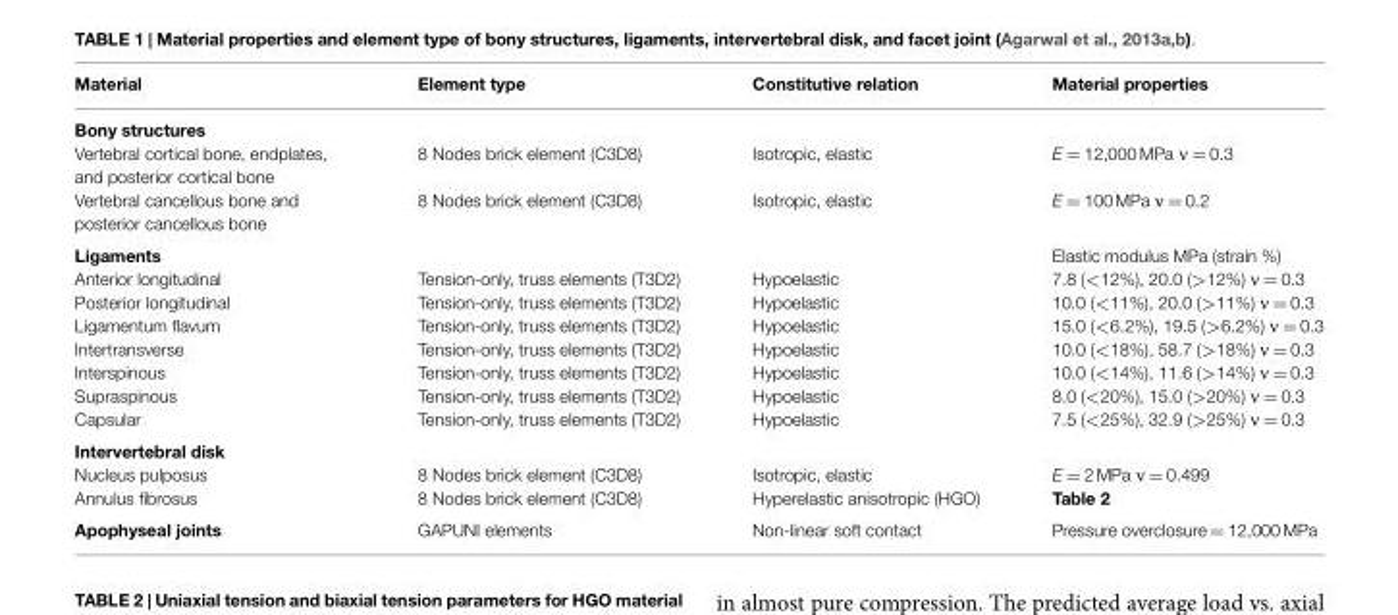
<table><thead><tr><td>Material</td><td>Element type</td><td>Constitutive relation</td><td>Material properties</td></tr></thead><tbody><tr><td colspan="4">Bony structures</td></tr><tr><td>Vertebral cortical bone, endplates, and posterior cortical bone</td><td>8 Nodes brick element (C3D8)</td><td>Isotropic, elastic</td><td>E = 12,000 MPa ν = 0.3</td></tr><tr><td>Vertebral cancellous bone and posterior cancellous bone</td><td>8 Nodes brick element (C3D8)</td><td>Isotropic, elastic</td><td>E = 100 MPa ν = 0.2</td></tr><tr><td>Ligaments</td><td></td><td></td><td>Elastic modulus MPa (strain %)</td></tr><tr><td>Anterior longitudinal</td><td>Tension-only, truss elements (T3D2)</td><td>Hypoelastic</td><td>7.8 (&lt;12%), 20.0 (&gt;12%) ν = 0.3</td></tr><tr><td>Posterior longitudinal</td><td>Tension-only, truss elements (T3D2)</td><td>Hypoelastic</td><td>10.0 (&lt;11%), 20.0 (&gt;11%) ν = 0.3</td></tr><tr><td>Ligamentum flavum</td><td>Tension-only, truss elements (T3D2)</td><td>Hypoelastic</td><td>15.0 (&lt;6.2%), 19.5 (&gt;6.2%) ν = 0.3</td></tr><tr><td>Intertransverse</td><td>Tension-only, truss elements (T3D2)</td><td>Hypoelastic</td><td>10.0 (&lt;18%), 58.7 (&gt;18%) ν = 0.3</td></tr><tr><td>Interspinous</td><td>Tension-only, truss elements (T3D2)</td><td>Hypoelastic</td><td>10.0 (&lt;14%), 11.6 (&gt;14%) ν = 0.3</td></tr><tr><td>Supraspinous</td><td>Tension-only, truss elements (T3D2)</td><td>Hypoelastic</td><td>8.0 (&lt;20%), 15.0 (&gt;20%) ν = 0.3</td></tr><tr><td>Capsular</td><td>Tension-only, truss elements (T3D2)</td><td>Hypoelastic</td><td>7.5 (&lt;25%), 32.9 (&gt;25%) ν = 0.3</td></tr><tr><td colspan="4">Intervertebral disk</td></tr><tr><td>Nucleus pulposus</td><td>8 Nodes brick element (C3D8)</td><td>Isotropic, elastic</td><td>E = 2 MPa ν = 0.499</td></tr><tr><td>Annulus fibrosus</td><td>8 Nodes brick element (C3D8)</td><td>Hyperelastic anisotropic (HGO)</td><td>Table 2</td></tr><tr><td>Apophyseal joints</td><td>GAPUNI elements</td><td>Non-linear soft contact</td><td>Pressure overclosure = 12,000 MPa</td></tr></tbody></table>